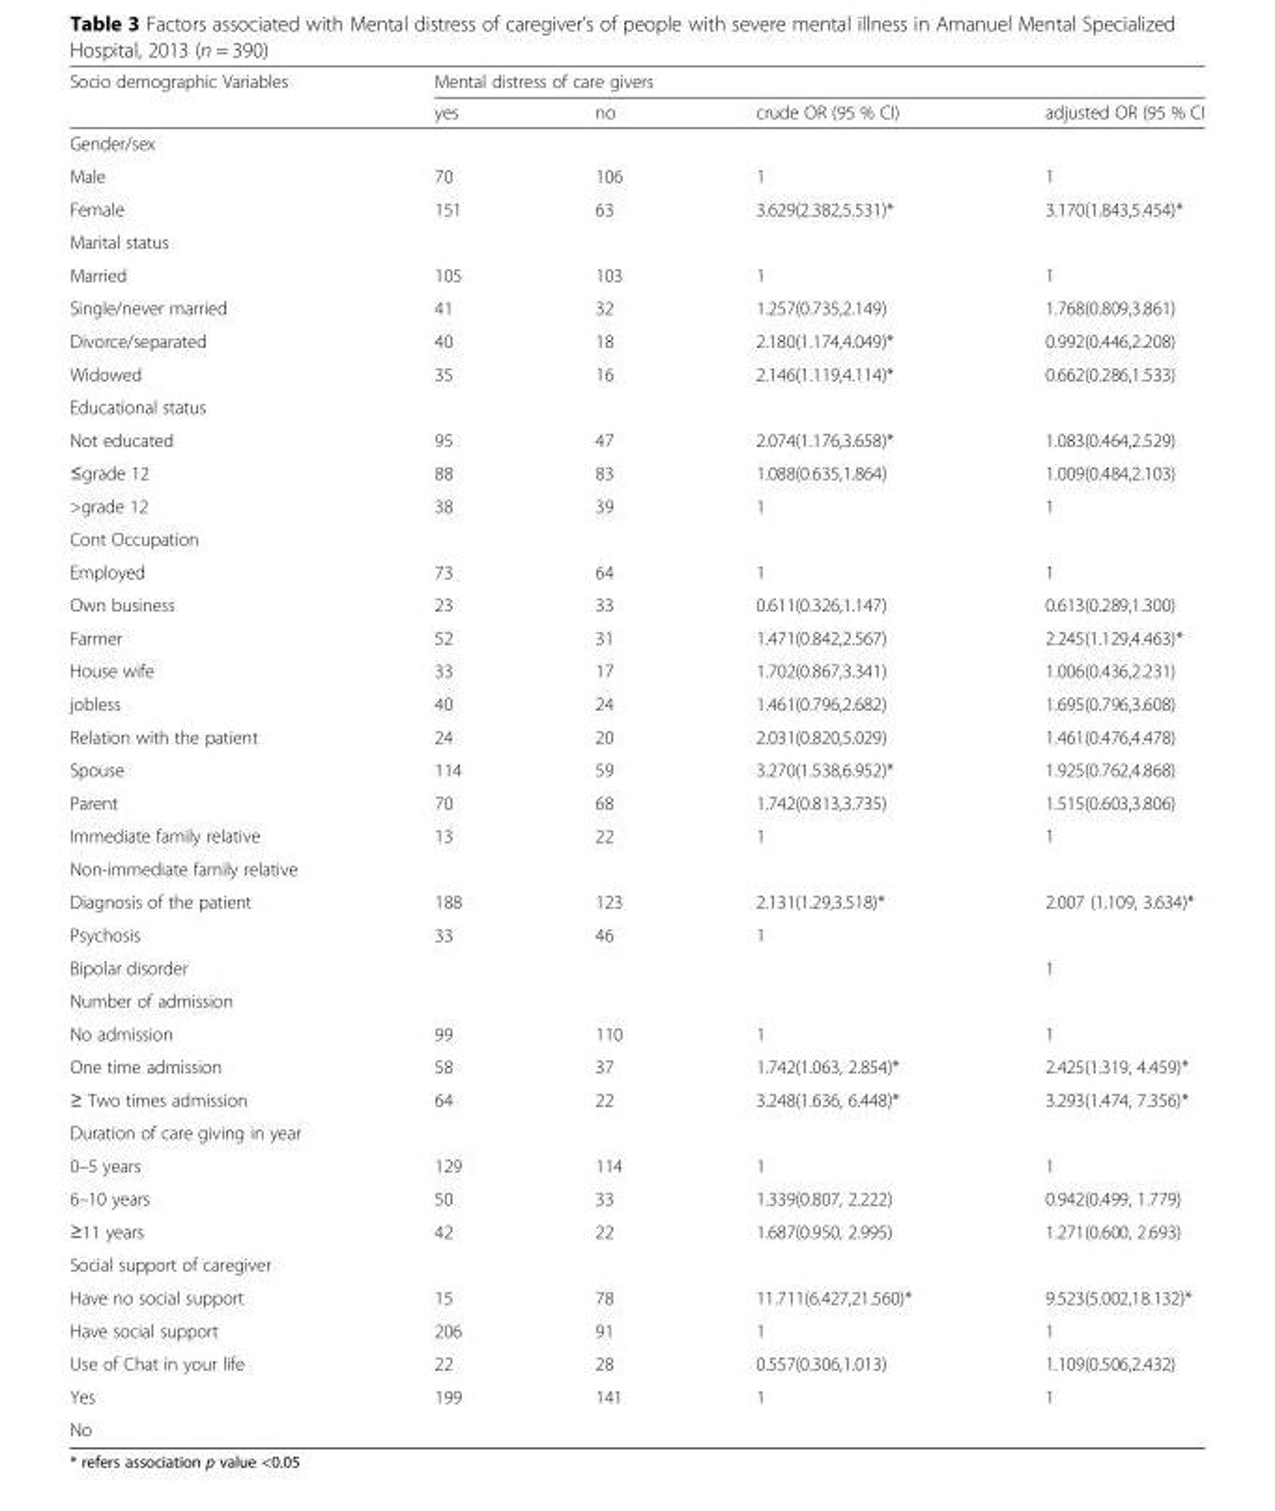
<table><thead><tr><td rowspan="2">Socio demographic Variables</td><td colspan="4">Mental distress of care givers</td></tr><tr><td>yes</td><td>no</td><td>crude OR (95 % CI)</td><td>adjusted OR (95 % CI</td></tr></thead><tbody><tr><td colspan="5">Gender/sex</td></tr><tr><td>Male</td><td>70</td><td>106</td><td>1</td><td>1</td></tr><tr><td>Female</td><td>151</td><td>63</td><td>3.629(2.382,5.531)*</td><td>3.170(1.843,5.454)*</td></tr><tr><td colspan="5">Marital status</td></tr><tr><td>Married</td><td>105</td><td>103</td><td>1</td><td>1</td></tr><tr><td>Single/never married</td><td>41</td><td>32</td><td>1.257(0.735,2.149)</td><td>1.768(0.809,3.861)</td></tr><tr><td>Divorce/separated</td><td>40</td><td>18</td><td>2.180(1.174,4.049)*</td><td>0.992(0.446,2.208)</td></tr><tr><td>Widowed</td><td>35</td><td>16</td><td>2.146(1.119,4.114)*</td><td>0.662(0.286,1.533)</td></tr><tr><td colspan="5">Educational status</td></tr><tr><td>Not educated</td><td>95</td><td>47</td><td>2.074(1.176,3.658)*</td><td>1.083(0.464,2.529)</td></tr><tr><td>≤grade 12</td><td>88</td><td>83</td><td>1.088(0.635,1.864)</td><td>1.009(0.484,2.103)</td></tr><tr><td>&gt;grade 12</td><td>38</td><td>39</td><td>1</td><td>1</td></tr><tr><td colspan="5">Cont Occupation</td></tr><tr><td>Employed</td><td>73</td><td>64</td><td>1</td><td>1</td></tr><tr><td>Own business</td><td>23</td><td>33</td><td>0.611(0.326,1.147)</td><td>0.613(0.289,1.300)</td></tr><tr><td>Farmer</td><td>52</td><td>31</td><td>1.471(0.842,2.567)</td><td>2.245(1.129,4.463)*</td></tr><tr><td>House wife</td><td>33</td><td>17</td><td>1.702(0.867,3.341)</td><td>1.006(0.436,2.231)</td></tr><tr><td>jobless</td><td>40</td><td>24</td><td>1.461(0.796,2.682)</td><td>1.695(0.796,3.608)</td></tr><tr><td>Relation with the patient</td><td>24</td><td>20</td><td>2.031(0.820,5.029)</td><td>1.461(0.476,4.478)</td></tr><tr><td>Spouse</td><td>114</td><td>59</td><td>3.270(1.538,6.952)*</td><td>1.925(0.762,4.868)</td></tr><tr><td>Parent</td><td>70</td><td>68</td><td>1.742(0.813,3.735)</td><td>1.515(0.603,3.806)</td></tr><tr><td>Immediate family relative</td><td>13</td><td>22</td><td>1</td><td>1</td></tr><tr><td colspan="5">Non-immediate family relative</td></tr><tr><td>Diagnosis of the patient</td><td>188</td><td>123</td><td>2.131(1.29,3.518)*</td><td>2.007 (1.109, 3.634)*</td></tr><tr><td>Psychosis</td><td>33</td><td>46</td><td>1</td><td></td></tr><tr><td>Bipolar disorder</td><td></td><td></td><td></td><td>1</td></tr><tr><td colspan="5">Number of admission</td></tr><tr><td>No admission</td><td>99</td><td>110</td><td>1</td><td>1</td></tr><tr><td>One time admission</td><td>58</td><td>37</td><td>1.742(1.063, 2.854)*</td><td>2.425(1.319, 4.459)*</td></tr><tr><td>≥ Two times admission</td><td>64</td><td>22</td><td>3.248(1.636, 6.448)*</td><td>3.293(1.474, 7.356)*</td></tr><tr><td colspan="5">Duration of care giving in year</td></tr><tr><td>0–5 years</td><td>129</td><td>114</td><td>1</td><td>1</td></tr><tr><td>6–10 years</td><td>50</td><td>33</td><td>1.339(0.807, 2.222)</td><td>0.942(0.499, 1.779)</td></tr><tr><td>≥11 years</td><td>42</td><td>22</td><td>1.687(0.950, 2.995)</td><td>1.271(0.600, 2.693)</td></tr><tr><td colspan="5">Social support of caregiver</td></tr><tr><td>Have no social support</td><td>15</td><td>78</td><td>11.711(6.427,21.560)*</td><td>9.523(5.002,18.132)*</td></tr><tr><td>Have social support</td><td>206</td><td>91</td><td>1</td><td>1</td></tr><tr><td>Use of Chat in your life</td><td>22</td><td>28</td><td>0.557(0.306,1.013)</td><td>1.109(0.506,2.432)</td></tr><tr><td>Yes</td><td>199</td><td>141</td><td>1</td><td>1</td></tr><tr><td>No</td><td></td><td></td><td></td><td></td></tr></tbody></table>